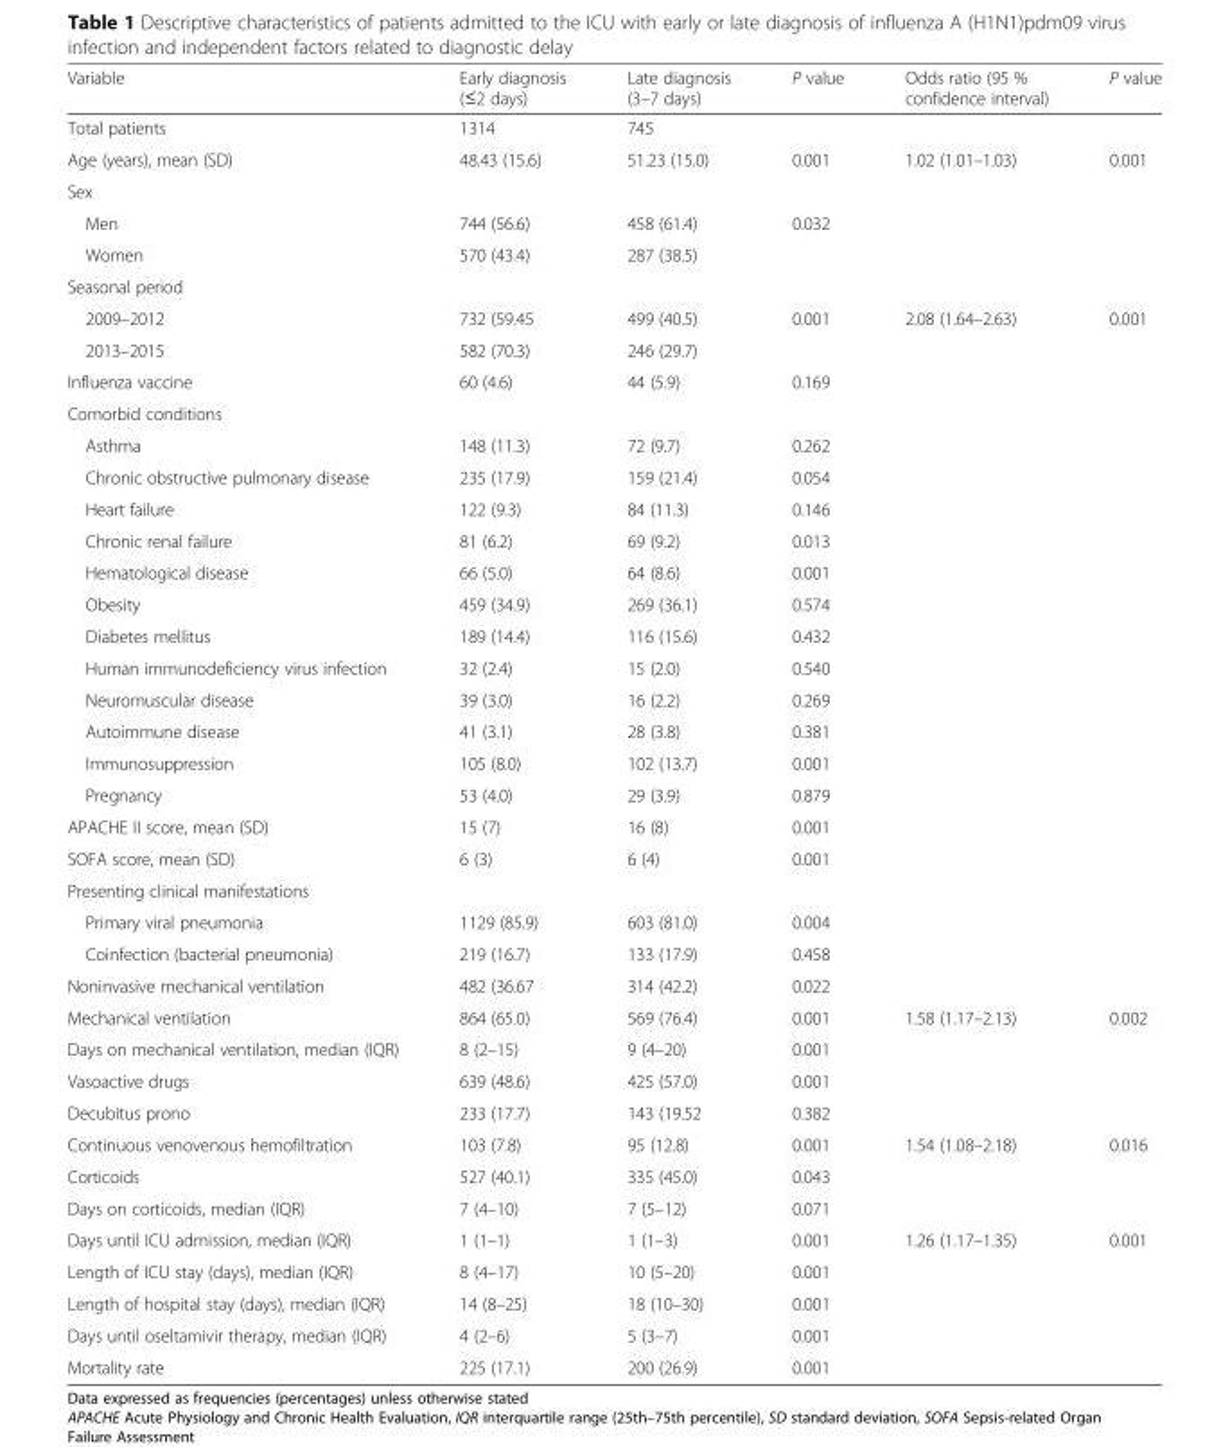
<table><thead><tr><td>Variable</td><td>Early diagnosis (≤2 days)</td><td>Late diagnosis (3–7 days)</td><td>P value</td><td>Odds ratio (95 % confidence interval)</td><td>P value</td></tr></thead><tbody><tr><td>Total patients</td><td>1314</td><td>745</td><td></td><td></td><td></td></tr><tr><td>Age (years), mean (SD)</td><td>48.43 (15.6)</td><td>51.23 (15.0)</td><td>0.001</td><td>1.02 (1.01–1.03)</td><td>0.001</td></tr><tr><td colspan="6">Sex</td></tr><tr><td>Men</td><td>744 (56.6)</td><td>458 (61.4)</td><td rowspan="2">0.032</td><td rowspan="2"></td><td rowspan="2"></td></tr><tr><td>Women</td><td>570 (43.4)</td><td>287 (38.5)</td></tr><tr><td colspan="6">Seasonal period</td></tr><tr><td>2009–2012</td><td>732 (59.45</td><td>499 (40.5)</td><td rowspan="2">0.001</td><td rowspan="2">2.08 (1.64–2.63)</td><td rowspan="2">0.001</td></tr><tr><td>2013–2015</td><td>582 (70.3)</td><td>246 (29.7)</td></tr><tr><td>Influenza vaccine</td><td>60 (4.6)</td><td>44 (5.9)</td><td>0.169</td><td></td><td></td></tr><tr><td colspan="6">Comorbid conditions</td></tr><tr><td>Asthma</td><td>148 (11.3)</td><td>72 (9.7)</td><td>0.262</td><td rowspan="14"></td><td rowspan="14"></td></tr><tr><td>Chronic obstructive pulmonary disease</td><td>235 (17.9)</td><td>159 (21.4)</td><td>0.054</td></tr><tr><td>Heart failure</td><td>122 (9.3)</td><td>84 (11.3)</td><td>0.146</td></tr><tr><td>Chronic renal failure</td><td>81 (6.2)</td><td>69 (9.2)</td><td>0.013</td></tr><tr><td>Hematological disease</td><td>66 (5.0)</td><td>64 (8.6)</td><td>0.001</td></tr><tr><td>Obesity</td><td>459 (34.9)</td><td>269 (36.1)</td><td>0.574</td></tr><tr><td>Diabetes mellitus</td><td>189 (14.4)</td><td>116 (15.6)</td><td>0.432</td></tr><tr><td>Human immunodeficiency virus infection</td><td>32 (2.4)</td><td>15 (2.0)</td><td>0.540</td></tr><tr><td>Neuromuscular disease</td><td>39 (3.0)</td><td>16 (2.2)</td><td>0.269</td></tr><tr><td>Autoimmune disease</td><td>41 (3.1)</td><td>28 (3.8)</td><td>0.381</td></tr><tr><td>Immunosuppression</td><td>105 (8.0)</td><td>102 (13.7)</td><td>0.001</td></tr><tr><td>Pregnancy</td><td>53 (4.0)</td><td>29 (3.9)</td><td>0.879</td></tr><tr><td>APACHE II score, mean (SD)</td><td>15 (7)</td><td>16 (8)</td><td>0.001</td></tr><tr><td>SOFA score, mean (SD)</td><td>6 (3)</td><td>6 (4)</td><td>0.001</td></tr><tr><td colspan="6">Presenting clinical manifestations</td></tr><tr><td>Primary viral pneumonia</td><td>1129 (85.9)</td><td>603 (81.0)</td><td>0.004</td><td rowspan="3"></td><td rowspan="3"></td></tr><tr><td>Coinfection (bacterial pneumonia)</td><td>219 (16.7)</td><td>133 (17.9)</td><td>0.458</td></tr><tr><td>Noninvasive mechanical ventilation</td><td>482 (36.67</td><td>314 (42.2)</td><td>0.022</td></tr><tr><td>Mechanical ventilation</td><td>864 (65.0)</td><td>569 (76.4)</td><td>0.001</td><td>1.58 (1.17–2.13)</td><td>0.002</td></tr><tr><td>Days on mechanical ventilation, median (IQR)</td><td>8 (2–15)</td><td>9 (4–20)</td><td>0.001</td><td rowspan="3"></td><td rowspan="3"></td></tr><tr><td>Vasoactive drugs</td><td>639 (48.6)</td><td>425 (57.0)</td><td>0.001</td></tr><tr><td>Decubitus prono</td><td>233 (17.7)</td><td>143 (19.52</td><td>0.382</td></tr><tr><td>Continuous venovenous hemofiltration</td><td>103 (7.8)</td><td>95 (12.8)</td><td>0.001</td><td>1.54 (1.08–2.18)</td><td>0.016</td></tr><tr><td>Corticoids</td><td>527 (40.1)</td><td>335 (45.0)</td><td>0.043</td><td rowspan="2"></td><td rowspan="2"></td></tr><tr><td>Days on corticoids, median (IQR)</td><td>7 (4–10)</td><td>7 (5–12)</td><td>0.071</td></tr><tr><td>Days until ICU admission, median (IQR)</td><td>1 (1–1)</td><td>1 (1–3)</td><td>0.001</td><td>1.26 (1.17–1.35)</td><td>0.001</td></tr><tr><td>Length of ICU stay (days), median (IQR)</td><td>8 (4–17)</td><td>10 (5–20)</td><td>0.001</td><td rowspan="4"></td><td rowspan="4"></td></tr><tr><td>Length of hospital stay (days), median (IQR)</td><td>14 (8–25)</td><td>18 (10–30)</td><td>0.001</td></tr><tr><td>Days until oseltamivir therapy, median (IQR)</td><td>4 (2–6)</td><td>5 (3–7)</td><td>0.001</td></tr><tr><td>Mortality rate</td><td>225 (17.1)</td><td>200 (26.9)</td><td>0.001</td></tr></tbody></table>